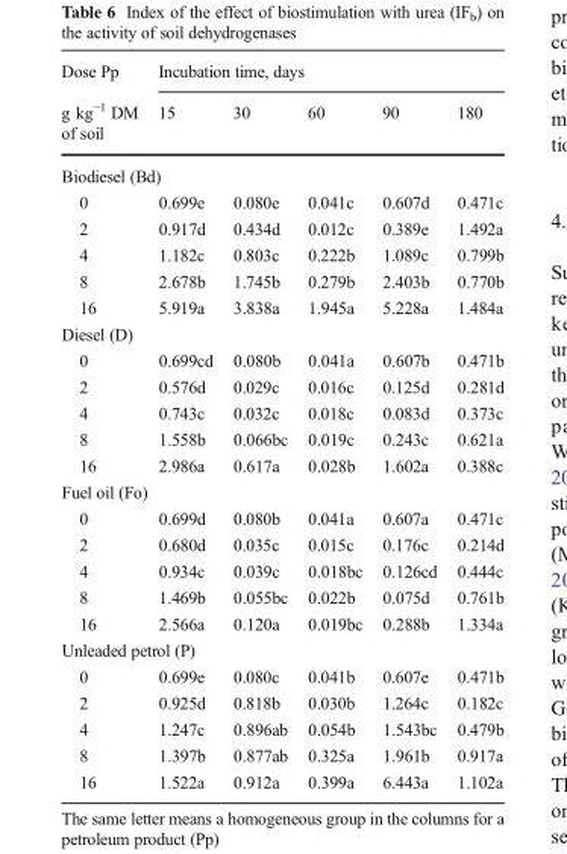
<table><thead><tr><td rowspan="2">Dose Pp g kg<sup>−1</sup> DM of soil</td><td colspan="5">Incubation time, days</td></tr><tr><td>15</td><td>30</td><td>60</td><td>90</td><td>180</td></tr></thead><tbody><tr><td colspan="6">Biodiesel (Bd)</td></tr><tr><td>0</td><td>0.699e</td><td>0.080e</td><td>0.041c</td><td>0.607d</td><td>0.471c</td></tr><tr><td>2</td><td>0.917d</td><td>0.434d</td><td>0.012c</td><td>0.389e</td><td>1.492a</td></tr><tr><td>4</td><td>1.182c</td><td>0.803c</td><td>0.222b</td><td>1.089c</td><td>0.799b</td></tr><tr><td>8</td><td>2.678b</td><td>1.745b</td><td>0.279b</td><td>2.403b</td><td>0.770b</td></tr><tr><td>16</td><td>5.919a</td><td>3.838a</td><td>1.945a</td><td>5.228a</td><td>1.484a</td></tr><tr><td colspan="6">Diesel (D)</td></tr><tr><td>0</td><td>0.699cd</td><td>0.080b</td><td>0.041a</td><td>0.607b</td><td>0.471b</td></tr><tr><td>2</td><td>0.576d</td><td>0.029c</td><td>0.016c</td><td>0.125d</td><td>0.281d</td></tr><tr><td>4</td><td>0.743c</td><td>0.032c</td><td>0.018c</td><td>0.083d</td><td>0.373c</td></tr><tr><td>8</td><td>1.558b</td><td>0.066bc</td><td>0.019c</td><td>0.243c</td><td>0.621a</td></tr><tr><td>16</td><td>2.986a</td><td>0.617a</td><td>0.028b</td><td>1.602a</td><td>0.388c</td></tr><tr><td colspan="6">Fuel oil (Fo)</td></tr><tr><td>0</td><td>0.699d</td><td>0.080b</td><td>0.041a</td><td>0.607a</td><td>0.471c</td></tr><tr><td>2</td><td>0.680d</td><td>0.035c</td><td>0.015c</td><td>0.176c</td><td>0.214d</td></tr><tr><td>4</td><td>0.934c</td><td>0.039c</td><td>0.018bc</td><td>0.126cd</td><td>0.444c</td></tr><tr><td>8</td><td>1.469b</td><td>0.055bc</td><td>0.022b</td><td>0.075d</td><td>0.761b</td></tr><tr><td>16</td><td>2.566a</td><td>0.120a</td><td>0.019bc</td><td>0.288b</td><td>1.334a</td></tr><tr><td colspan="6">Unleaded petrol (P)</td></tr><tr><td>0</td><td>0.699e</td><td>0.080c</td><td>0.041b</td><td>0.607e</td><td>0.471b</td></tr><tr><td>2</td><td>0.925d</td><td>0.818b</td><td>0.030b</td><td>1.264c</td><td>0.182c</td></tr><tr><td>4</td><td>1.247c</td><td>0.896ab</td><td>0.054b</td><td>1.543bc</td><td>0.479b</td></tr><tr><td>8</td><td>1.397b</td><td>0.877ab</td><td>0.325a</td><td>1.961b</td><td>0.917a</td></tr><tr><td>16</td><td>1.522a</td><td>0.912a</td><td>0.399a</td><td>6.443a</td><td>1.102a</td></tr></tbody></table>